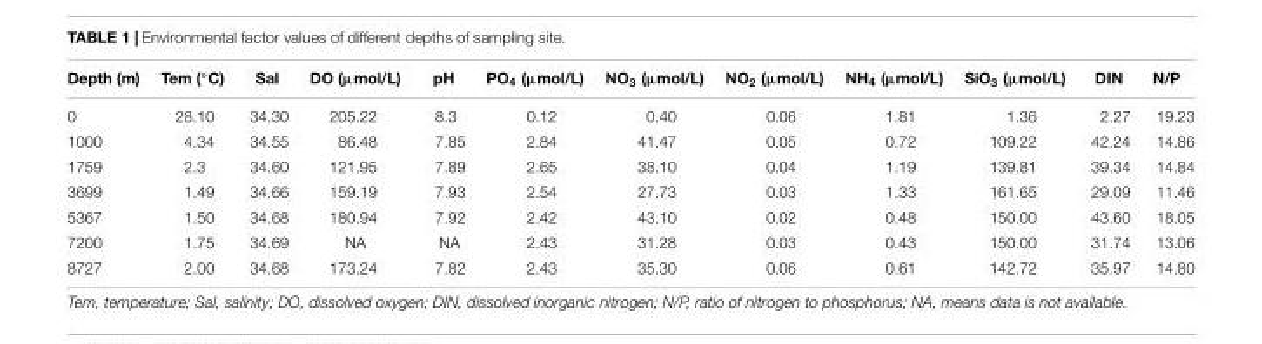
<table><thead><tr><td>Depth (m)</td><td>Tem (◦C)</td><td>Sal</td><td>DO (µmol/L)</td><td>pH</td><td>PO<sub>4</sub> (µmol/L)</td><td>NO<sub>3</sub> (µmol/L)</td><td>NO<sub>2</sub> (µmol/L)</td><td>NH<sub>4</sub> (µmol/L)</td><td>SiO<sub>3</sub> (µmol/L)</td><td>DIN</td><td>N/P</td></tr></thead><tbody><tr><td>0</td><td>28.10</td><td>34.30</td><td>205.22</td><td>8.3</td><td>0.12</td><td>0.40</td><td>0.06</td><td>1.81</td><td>1.36</td><td>2.27</td><td>19.23</td></tr><tr><td>1000</td><td>4.34</td><td>34.55</td><td>86.48</td><td>7.85</td><td>2.84</td><td>41.47</td><td>0.05</td><td>0.72</td><td>109.22</td><td>42.24</td><td>14.86</td></tr><tr><td>1759</td><td>2.3</td><td>34.60</td><td>121.95</td><td>7.89</td><td>2.65</td><td>38.10</td><td>0.04</td><td>1.19</td><td>139.81</td><td>39.34</td><td>14.84</td></tr><tr><td>3699</td><td>1.49</td><td>34.66</td><td>159.19</td><td>7.93</td><td>2.54</td><td>27.73</td><td>0.03</td><td>1.33</td><td>161.65</td><td>29.09</td><td>11.46</td></tr><tr><td>5367</td><td>1.50</td><td>34.68</td><td>180.94</td><td>7.92</td><td>2.42</td><td>43.10</td><td>0.02</td><td>0.48</td><td>150.00</td><td>43.60</td><td>18.05</td></tr><tr><td>7200</td><td>1.75</td><td>34.69</td><td>NA</td><td>NA</td><td>2.43</td><td>31.28</td><td>0.03</td><td>0.43</td><td>150.00</td><td>31.74</td><td>13.06</td></tr><tr><td>8727</td><td>2.00</td><td>34.68</td><td>173.24</td><td>7.82</td><td>2.43</td><td>35.30</td><td>0.06</td><td>0.61</td><td>142.72</td><td>35.97</td><td>14.80</td></tr></tbody></table>